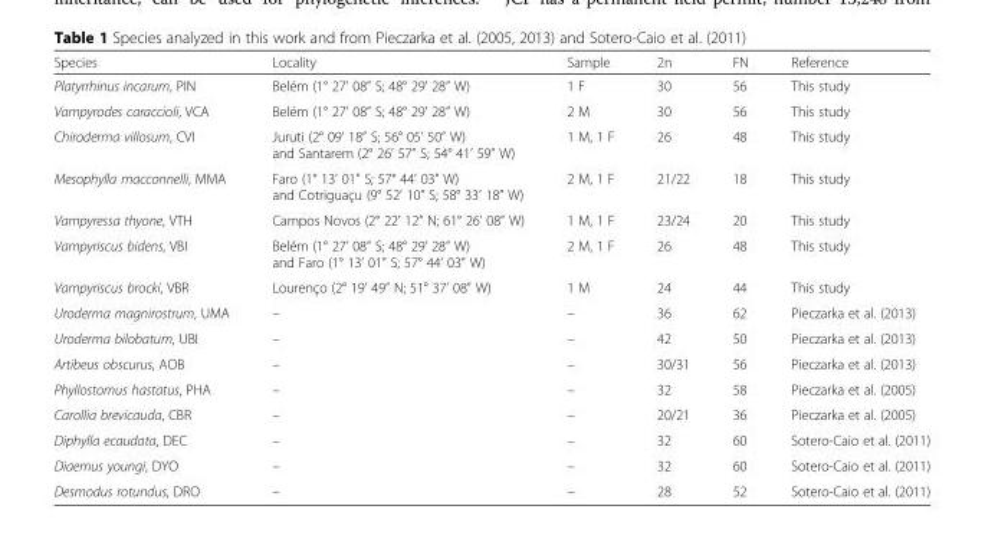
<table><thead><tr><td>Species</td><td>Locality</td><td>Sample</td><td>2n</td><td>FN</td><td>Reference</td></tr></thead><tbody><tr><td>Platyrrhinus incarum, PIN</td><td>Belém (1° 27’ 08” S; 48° 29’ 28” W)</td><td>1 F</td><td>30</td><td>56</td><td>This study</td></tr><tr><td>Vampyrodes caraccioli, VCA</td><td>Belém (1° 27’ 08” S; 48° 29’ 28” W)</td><td>2 M</td><td>30</td><td>56</td><td>This study</td></tr><tr><td>Chiroderma villosum, CVI</td><td>Juruti (2° 09’ 18” S; 56° 05’ 50” W) and Santarem (2° 26’ 57” S; 54° 41’ 59” W)</td><td>1 M, 1 F</td><td>26</td><td>48</td><td>This study</td></tr><tr><td>Mesophylla macconnelli, MMA</td><td>Faro (1° 13’ 01” S; 57° 44’ 03” W) and Cotriguaçu (9° 52’ 10” S; 58° 33’ 18” W)</td><td>2 M, 1 F</td><td>21/22</td><td>18</td><td>This study</td></tr><tr><td>Vampyressa thyone, VTH</td><td>Campos Novos (2° 22’ 12” N; 61° 26’ 08” W)</td><td>1 M, 1 F</td><td>23/24</td><td>20</td><td>This study</td></tr><tr><td>Vampyriscus bidens, VBI</td><td>Belém (1° 27’ 08” S; 48° 29’ 28” W) and Faro (1° 13’ 01” S; 57° 44’ 03” W)</td><td>2 M, 1 F</td><td>26</td><td>48</td><td>This study</td></tr><tr><td>Vampyriscus brocki, VBR</td><td>Lourenço (2° 19’ 49” N; 51° 37’ 08” W)</td><td>1 M</td><td>24</td><td>44</td><td>This study</td></tr><tr><td>Uroderma magnirostrum, UMA</td><td>–</td><td>–</td><td>36</td><td>62</td><td>Pieczarka et al. (2013)</td></tr><tr><td>Uroderma bilobatum, UBI</td><td>–</td><td>–</td><td>42</td><td>50</td><td>Pieczarka et al. (2013)</td></tr><tr><td>Artibeus obscurus, AOB</td><td>–</td><td>–</td><td>30/31</td><td>56</td><td>Pieczarka et al. (2013)</td></tr><tr><td>Phyllostomus hastatus, PHA</td><td>–</td><td>–</td><td>32</td><td>58</td><td>Pieczarka et al. (2005)</td></tr><tr><td>Carollia brevicauda, CBR</td><td>–</td><td>–</td><td>20/21</td><td>36</td><td>Pieczarka et al. (2005)</td></tr><tr><td>Diphylla ecaudata, DEC</td><td>–</td><td>–</td><td>32</td><td>60</td><td>Sotero-Caio et al. (2011)</td></tr><tr><td>Diaemus youngi, DYO</td><td>–</td><td>–</td><td>32</td><td>60</td><td>Sotero-Caio et al. (2011)</td></tr><tr><td>Desmodus rotundus, DRO</td><td>–</td><td>–</td><td>28</td><td>52</td><td>Sotero-Caio et al. (2011)</td></tr></tbody></table>